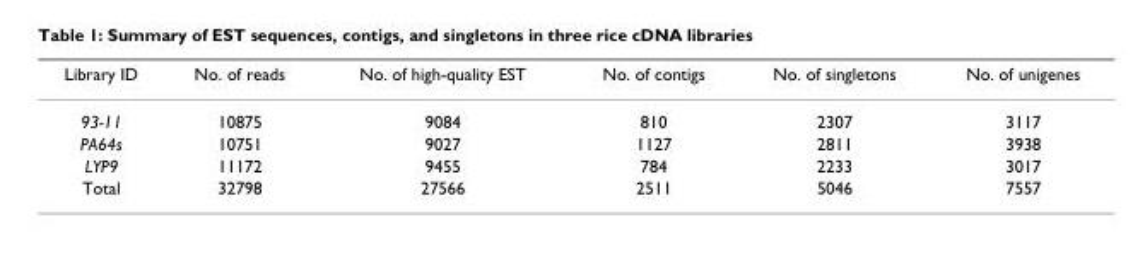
<table><thead><tr><td>Library ID</td><td>No. of reads</td><td>No. of high-quality EST</td><td>No. of contigs</td><td>No. of singletons</td><td>No. of unigenes</td></tr></thead><tbody><tr><td>93-11</td><td>10875</td><td>9084</td><td>810</td><td>2307</td><td>3117</td></tr><tr><td>PA64s</td><td>10751</td><td>9027</td><td>1127</td><td>2811</td><td>3938</td></tr><tr><td>LYP9</td><td>11172</td><td>9455</td><td>784</td><td>2233</td><td>3017</td></tr><tr><td>Total</td><td>32798</td><td>27566</td><td>2511</td><td>5046</td><td>7557</td></tr></tbody></table>